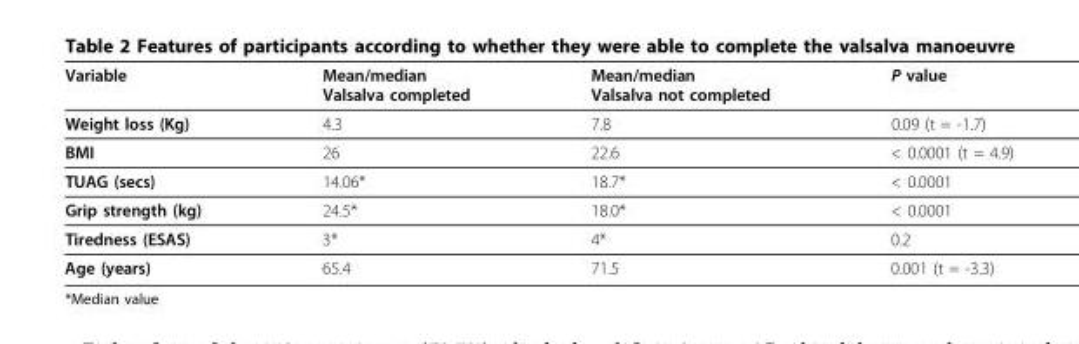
<table><thead><tr><td>Variable</td><td>Mean/median Valsalva completed</td><td>Mean/median Valsalva not completed</td><td>P value</td></tr></thead><tbody><tr><td>Weight loss (Kg)</td><td>4.3</td><td>7.8</td><td>0.09 (t = -1.7)</td></tr><tr><td>BMI</td><td>26</td><td>22.6</td><td>&lt; 0.0001 (t = 4.9)</td></tr><tr><td>TUAG (secs)</td><td>14.06*</td><td>18.7*</td><td>&lt; 0.0001</td></tr><tr><td>Grip strength (kg)</td><td>24.5*</td><td>18.0*</td><td>&lt; 0.0001</td></tr><tr><td>Tiredness (ESAS)</td><td>3*</td><td>4*</td><td>0.2</td></tr><tr><td>Age (years)</td><td>65.4</td><td>71.5</td><td>0.001 (t = -3.3)</td></tr></tbody></table>